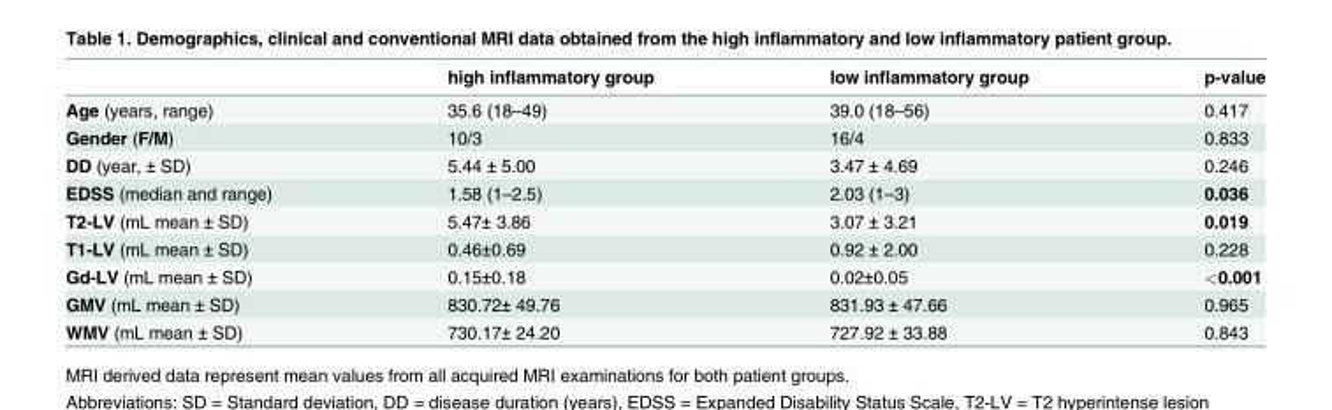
<table><thead><tr><td></td><td>high inflammatory group</td><td>low inflammatory group</td><td>p-value</td></tr></thead><tbody><tr><td>Age (years, range)</td><td>35.6 (18–49)</td><td>39.0 (18–56)</td><td>0.417</td></tr><tr><td>Gender (F/M)</td><td>10/3</td><td>16/4</td><td>0.833</td></tr><tr><td>DD (year, ± SD)</td><td>5.44 ± 5.00</td><td>3.47 ± 4.69</td><td>0.246</td></tr><tr><td>EDSS (median and range)</td><td>1.58 (1–2.5)</td><td>2.03 (1–3)</td><td>0.036</td></tr><tr><td>T2-LV (mL mean ± SD)</td><td>5.47± 3.86</td><td>3.07 ± 3.21</td><td>0.019</td></tr><tr><td>T1-LV (mL mean ± SD)</td><td>0.46±0.69</td><td>0.92 ± 2.00</td><td>0.228</td></tr><tr><td>Gd-LV (mL mean ± SD)</td><td>0.15±0.18</td><td>0.02±0.05</td><td>&lt;0.001</td></tr><tr><td>GMV (mL mean ± SD)</td><td>830.72± 49.76</td><td>831.93 ± 47.66</td><td>0.965</td></tr><tr><td>WMV (mL mean ± SD)</td><td>730.17± 24.20</td><td>727.92 ± 33.88</td><td>0.843</td></tr></tbody></table>